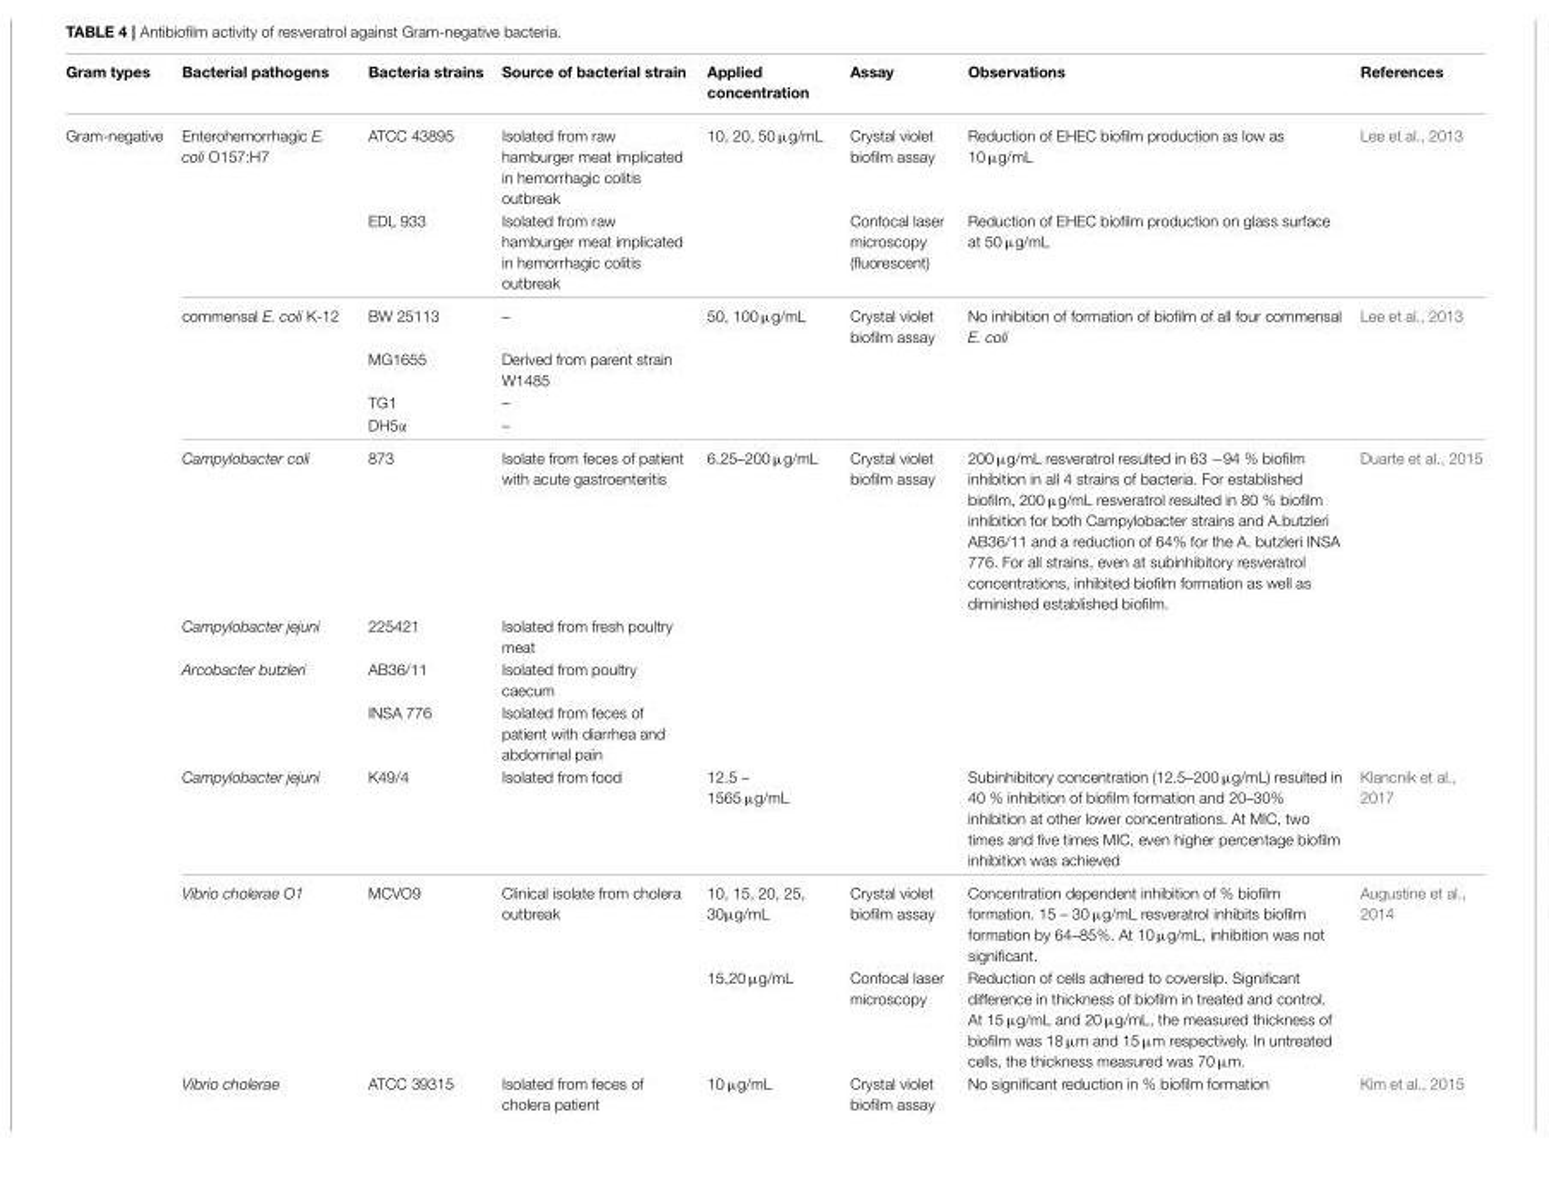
<table><thead><tr><td>Gram types</td><td>Bacterial pathogens</td><td>Bacteria strains</td><td>Source of bacterial strain</td><td>Applied concentration</td><td>Assay</td><td>Observations</td><td>References</td></tr></thead><tbody><tr><td rowspan="14">Gram-negative</td><td>Enterohemorrhagic E. coli O157:H7</td><td>ATCC 43895</td><td>Isolated from raw hamburger meat implicated in hemorrhagic colitis outbreak</td><td>10, 20, 50 µg/mL</td><td>Crystal violet biofilm assay</td><td>Reduction of EHEC biofilm production as low as 10 µg/mL</td><td>Lee et al., 2013</td></tr><tr><td></td><td>EDL 933</td><td>Isolated from raw hamburger meat implicated in hemorrhagic colitis outbreak</td><td></td><td>Confocal laser microscopy (fluorescent)</td><td>Reduction of EHEC biofilm production on glass surface at 50 µg/mL</td><td></td></tr><tr><td>commensal E. coli K-12</td><td>BW 25113</td><td>–</td><td>50, 100 µg/mL</td><td>Crystal violet biofilm assay</td><td>No inhibition of formation of biofilm of all four commensal E. coli</td><td>Lee et al., 2013</td></tr><tr><td></td><td>MG1655</td><td>Derived from parent strain W1485</td><td></td><td></td><td></td><td></td></tr><tr><td></td><td>TG1</td><td>–</td><td></td><td></td><td></td><td></td></tr><tr><td></td><td>DH5α</td><td>–</td><td></td><td></td><td></td><td></td></tr><tr><td>Campylobacter coli</td><td>873</td><td>Isolate from feces of patient with acute gastroenteritis</td><td>6.25–200 µg/mL</td><td>Crystal violet biofilm assay</td><td>200 µg/mL resveratrol resulted in 63 −94 % biofilm inhibition in all 4 strains of bacteria. For established biofilm, 200 µg/mL resveratrol resulted in 80 % biofilm inhibition for both Campylobacter strains and A.butzleri AB36/11 and a reduction of 64% for the A. butzleri INSA 776. For all strains, even at subinhibitory resveratrol concentrations, inhibited biofilm formation as well as diminished established biofilm.</td><td>Duarte et al., 2015</td></tr><tr><td>Campylobacter jejuni</td><td>225421</td><td>Isolated from fresh poultry meat</td><td></td><td></td><td></td><td></td></tr><tr><td>Arcobacter butzleri</td><td>AB36/11</td><td>Isolated from poultry caecum</td><td></td><td></td><td></td><td></td></tr><tr><td></td><td>INSA 776</td><td>Isolated from feces of patient with diarrhea and abdominal pain</td><td></td><td></td><td></td><td></td></tr><tr><td>Campylobacter jejuni</td><td>K49/4</td><td>Isolated from food</td><td>12.5 – 1565 µg/mL</td><td></td><td>Subinhibitory concentration (12.5–200 µg/mL) resulted in 40 % inhibition of biofilm formation and 20–30% inhibition at other lower concentrations. At MIC, two times and five times MIC, even higher percentage biofilm inhibition was achieved</td><td>Klancnik et al., 2017</td></tr><tr><td>Vibrio cholerae O1</td><td>MCVO9</td><td>Clinical isolate from cholera outbreak</td><td>10, 15, 20, 25, 30µg/mL</td><td>Crystal violet biofilm assay</td><td>Concentration dependent inhibition of % biofilm formation. 15 – 30 µg/mL resveratrol inhibits biofilm formation by 64–85%. At 10 µg/mL, inhibition was not significant.</td><td>Augustine et al., 2014</td></tr><tr><td></td><td></td><td></td><td>15,20 µg/mL</td><td>Confocal laser microscopy</td><td>Reduction of cells adhered to coverslip. Significant difference in thickness of biofilm in treated and control. At 15 µg/mL and 20 µg/mL, the measured thickness of biofilm was 18 µm and 15 µm respectively. In untreated cells, the thickness measured was 70 µm.</td><td></td></tr><tr><td>Vibrio cholerae</td><td>ATCC 39315</td><td>Isolated from feces of cholera patient</td><td>10 µg/mL</td><td>Crystal violet biofilm assay</td><td>No significant reduction in % biofilm formation</td><td>Kim et al., 2015</td></tr></tbody></table>